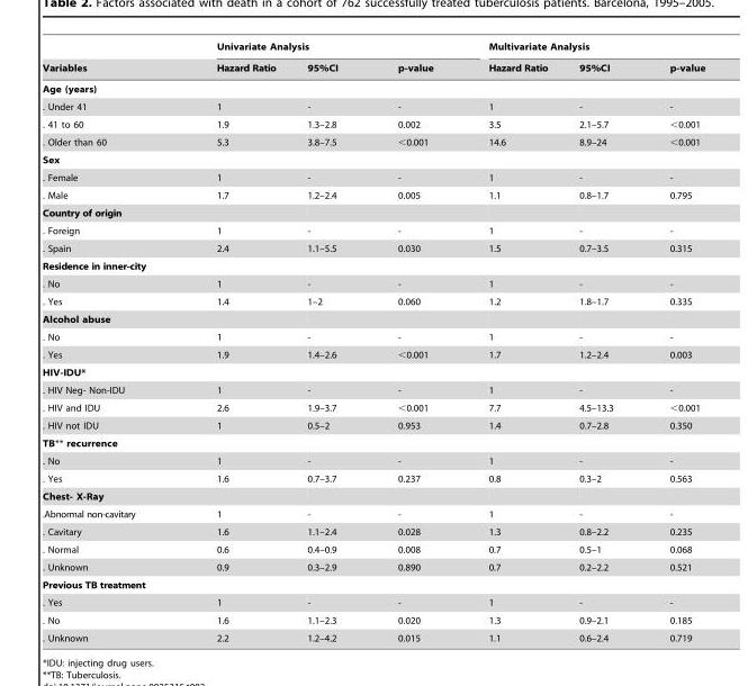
<table><thead><tr><td rowspan="2">Variables</td><td colspan="3">Univariate Analysis</td><td colspan="3">Multivariate Analysis</td></tr><tr><td>Hazard Ratio</td><td>95%CI</td><td>p-value</td><td>Hazard Ratio</td><td>95%CI</td><td>p-value</td></tr></thead><tbody><tr><td colspan="7">Age (years)</td></tr><tr><td>. Under 41</td><td>1</td><td>-</td><td>-</td><td>1</td><td>-</td><td>-</td></tr><tr><td>. 41 to 60</td><td>1.9</td><td>1.3–2.8</td><td>0.002</td><td>3.5</td><td>2.1–5.7</td><td>&lt;0.001</td></tr><tr><td>. Older than 60</td><td>5.3</td><td>3.8–7.5</td><td>&lt;0.001</td><td>14.6</td><td>8.9–24</td><td>&lt;0.001</td></tr><tr><td colspan="7">Sex</td></tr><tr><td>. Female</td><td>1</td><td>-</td><td>-</td><td>1</td><td>-</td><td>-</td></tr><tr><td>. Male</td><td>1.7</td><td>1.2–2.4</td><td>0.005</td><td>1.1</td><td>0.8–1.7</td><td>0.795</td></tr><tr><td colspan="7">Country of origin</td></tr><tr><td>. Foreign</td><td>1</td><td>-</td><td>-</td><td>1</td><td>-</td><td>-</td></tr><tr><td>. Spain</td><td>2.4</td><td>1.1–5.5</td><td>0.030</td><td>1.5</td><td>0.7–3.5</td><td>0.315</td></tr><tr><td colspan="7">Residence in inner-city</td></tr><tr><td>. No</td><td>1</td><td>-</td><td>-</td><td>1</td><td>-</td><td>-</td></tr><tr><td>. Yes</td><td>1.4</td><td>1–2</td><td>0.060</td><td>1.2</td><td>1.8–1.7</td><td>0.335</td></tr><tr><td colspan="7">Alcohol abuse</td></tr><tr><td>. No</td><td>1</td><td>-</td><td>-</td><td>1</td><td>-</td><td>-</td></tr><tr><td>. Yes</td><td>1.9</td><td>1.4–2.6</td><td>&lt;0.001</td><td>1.7</td><td>1.2–2.4</td><td>0.003</td></tr><tr><td colspan="7">HIV-IDU*</td></tr><tr><td>. HIV Neg- Non-IDU</td><td>1</td><td>-</td><td>-</td><td>1</td><td>-</td><td>-</td></tr><tr><td>. HIV and IDU</td><td>2.6</td><td>1.9–3.7</td><td>&lt;0.001</td><td>7.7</td><td>4.5–13.3</td><td>&lt;0.001</td></tr><tr><td>. HIV not IDU</td><td>1</td><td>0.5–2</td><td>0.953</td><td>1.4</td><td>0.7–2.8</td><td>0.350</td></tr><tr><td colspan="7">TB** recurrence</td></tr><tr><td>. No</td><td>1</td><td>-</td><td>-</td><td>1</td><td>-</td><td>-</td></tr><tr><td>. Yes</td><td>1.6</td><td>0.7–3.7</td><td>0.237</td><td>0.8</td><td>0.3–2</td><td>0.563</td></tr><tr><td colspan="7">Chest- X-Ray</td></tr><tr><td>.Abnormal non-cavitary</td><td>1</td><td>-</td><td>-</td><td>1</td><td>-</td><td>-</td></tr><tr><td>. Cavitary</td><td>1.6</td><td>1.1–2.4</td><td>0.028</td><td>1.3</td><td>0.8–2.2</td><td>0.235</td></tr><tr><td>. Normal</td><td>0.6</td><td>0.4–0.9</td><td>0.008</td><td>0.7</td><td>0.5–1</td><td>0.068</td></tr><tr><td>. Unknown</td><td>0.9</td><td>0.3–2.9</td><td>0.890</td><td>0.7</td><td>0.2–2.2</td><td>0.521</td></tr><tr><td colspan="7">Previous TB treatment</td></tr><tr><td>. Yes</td><td>1</td><td>-</td><td>-</td><td>1</td><td>-</td><td>-</td></tr><tr><td>. No</td><td>1.6</td><td>1.1–2.3</td><td>0.020</td><td>1.3</td><td>0.9–2.1</td><td>0.185</td></tr><tr><td>. Unknown</td><td>2.2</td><td>1.2–4.2</td><td>0.015</td><td>1.1</td><td>0.6–2.4</td><td>0.719</td></tr></tbody></table>